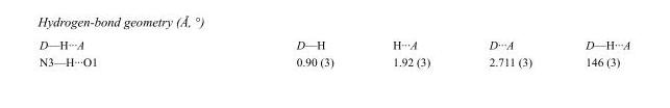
<table><tbody><tr><td>D—H···A</td><td>D—H</td><td>H···A</td><td>D···A</td><td>D—H···A</td></tr><tr><td>N3—H···O1</td><td>0.90 (3)</td><td>1.92 (3)</td><td>2.711 (3)</td><td>146 (3)</td></tr></tbody></table>